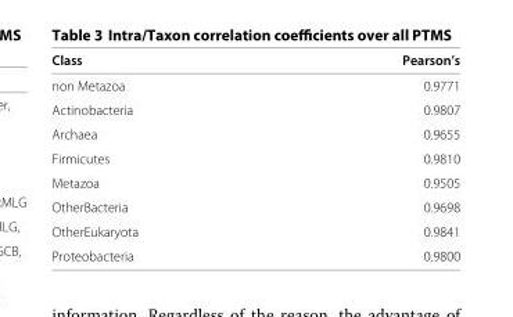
<table><thead><tr><td>Class</td><td>Pearson’s</td></tr></thead><tbody><tr><td>non Metazoa</td><td>0.9771</td></tr><tr><td>Actinobacteria</td><td>0.9807</td></tr><tr><td>Archaea</td><td>0.9655</td></tr><tr><td>Firmicutes</td><td>0.9810</td></tr><tr><td>Metazoa</td><td>0.9505</td></tr><tr><td>OtherBacteria</td><td>0.9698</td></tr><tr><td>OtherEukaryota</td><td>0.9841</td></tr><tr><td>Proteobacteria</td><td>0.9800</td></tr></tbody></table>